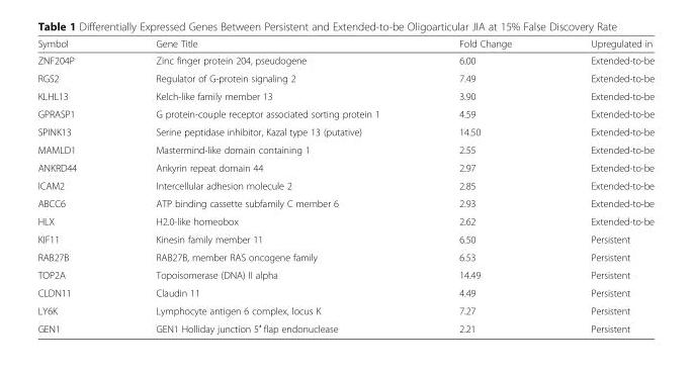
<table><thead><tr><td>Symbol</td><td>Gene Title</td><td>Fold Change</td><td>Upregulated in</td></tr></thead><tbody><tr><td>ZNF204P</td><td>Zinc finger protein 204, pseudogene</td><td>6.00</td><td>Extended-to-be</td></tr><tr><td>RGS2</td><td>Regulator of G-protein signaling 2</td><td>7.49</td><td>Extended-to-be</td></tr><tr><td>KLHL13</td><td>Kelch-like family member 13</td><td>3.90</td><td>Extended-to-be</td></tr><tr><td>GPRASP1</td><td>G protein-couple receptor associated sorting protein 1</td><td>4.59</td><td>Extended-to-be</td></tr><tr><td>SPINK13</td><td>Serine peptidase inhibitor, Kazal type 13 (putative)</td><td>14.50</td><td>Extended-to-be</td></tr><tr><td>MAMLD1</td><td>Mastermind-like domain containing 1</td><td>2.55</td><td>Extended-to-be</td></tr><tr><td>ANKRD44</td><td>Ankyrin repeat domain 44</td><td>2.97</td><td>Extended-to-be</td></tr><tr><td>ICAM2</td><td>Intercellular adhesion molecule 2</td><td>2.85</td><td>Extended-to-be</td></tr><tr><td>ABCC6</td><td>ATP binding cassette subfamily C member 6</td><td>2.93</td><td>Extended-to-be</td></tr><tr><td>HLX</td><td>H2.0-like homeobox</td><td>2.62</td><td>Extended-to-be</td></tr><tr><td>KIF11</td><td>Kinesin family member 11</td><td>6.50</td><td>Persistent</td></tr><tr><td>RAB27B</td><td>RAB27B, member RAS oncogene family</td><td>6.53</td><td>Persistent</td></tr><tr><td>TOP2A</td><td>Topoisomerase (DNA) II alpha</td><td>14.49</td><td>Persistent</td></tr><tr><td>CLDN11</td><td>Claudin 11</td><td>4.49</td><td>Persistent</td></tr><tr><td>LY6K</td><td>Lymphocyte antigen 6 complex, locus K</td><td>7.27</td><td>Persistent</td></tr><tr><td>GEN1</td><td>GEN1 Holliday junction 5′ flap endonuclease</td><td>2.21</td><td>Persistent</td></tr></tbody></table>